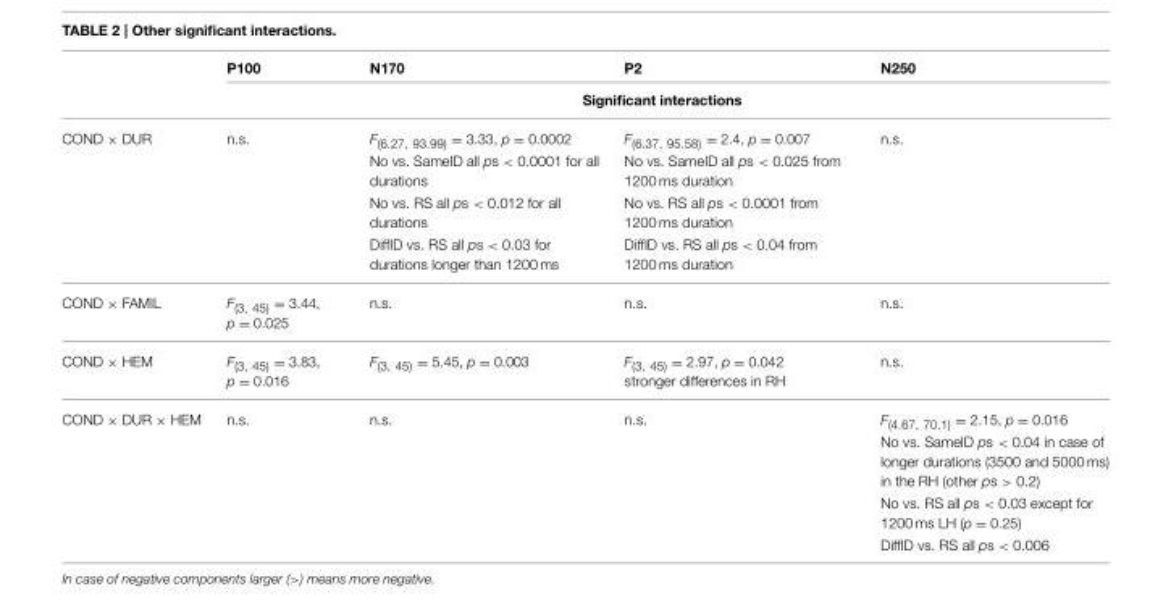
<table><thead><tr><td rowspan="2"></td><td>P100</td><td>N170</td><td>P2</td><td>N250</td></tr><tr><td colspan="4">Significant interactions</td></tr></thead><tbody><tr><td rowspan="4">COND × DUR</td><td>n.s.</td><td>F<sub>(6.27, 93.99)</sub> = 3.33, p = 0.0002</td><td>F<sub>(6.37, 95.58)</sub> = 2.4, p = 0.007</td><td>n.s.</td></tr><tr><td></td><td>No vs. SameID all ps &lt; 0.0001 for all durations</td><td>No vs. SameID all ps &lt; 0.025 from 1200 ms duration</td><td></td></tr><tr><td></td><td>No vs. RS all ps &lt; 0.012 for all durations</td><td>No vs. RS all ps &lt; 0.0001 from 1200 ms duration</td><td></td></tr><tr><td></td><td>DiffID vs. RS all ps &lt; 0.03 for durations longer than 1200 ms</td><td>DiffID vs. RS all ps &lt; 0.04 from 1200 ms duration</td><td></td></tr><tr><td>COND × FAMIL</td><td>F<sub>(3, 45)</sub> = 3.44, p = 0.025</td><td>n.s.</td><td>n.s.</td><td>n.s.</td></tr><tr><td>COND × HEM</td><td>F<sub>(3, 45)</sub> = 3.83, p = 0.016</td><td>F<sub>(3, 45)</sub> = 5.45, p = 0.003</td><td>F<sub>(3, 45)</sub> = 2.97, p = 0.042 stronger differences in RH</td><td>n.s.</td></tr><tr><td rowspan="4">COND × DUR × HEM</td><td>n.s.</td><td>n.s.</td><td>n.s.</td><td>F<sub>(4.67, 70.1)</sub> = 2.15, p = 0.016</td></tr><tr><td></td><td></td><td></td><td>No vs. SameID ps &lt; 0.04 in case of longer durations (3500 and 5000 ms) in the RH (other ps &gt; 0.2)</td></tr><tr><td></td><td></td><td></td><td>No vs. RS all ps &lt; 0.03 except for 1200 ms LH (p = 0.25)</td></tr><tr><td></td><td></td><td></td><td>DiffID vs. RS all ps &lt; 0.006</td></tr></tbody></table>